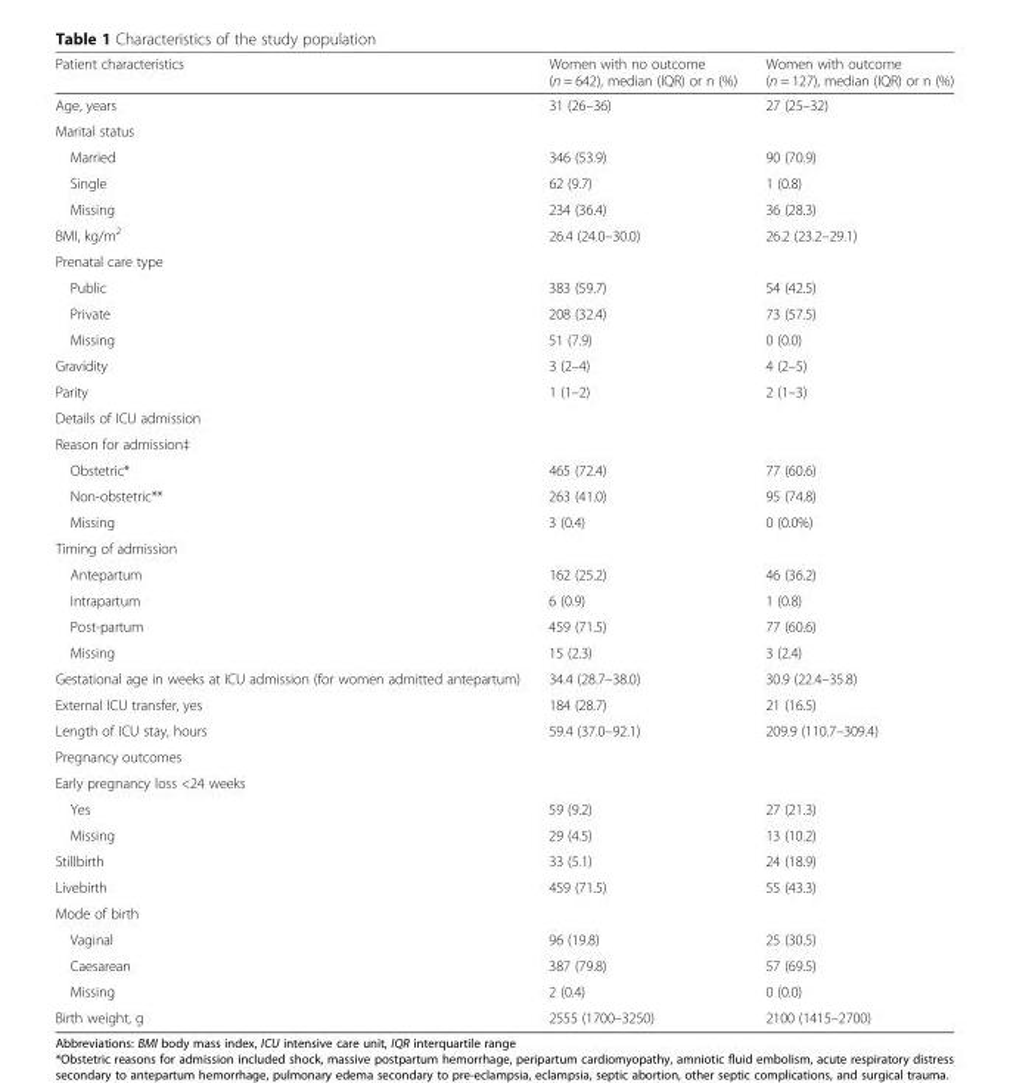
<table><thead><tr><td>Patient characteristics</td><td>Women with no outcome (n = 642), median (IQR) or n (%)</td><td>Women with outcome (n = 127), median (IQR) or n (%)</td></tr></thead><tbody><tr><td>Age, years</td><td>31 (26–36)</td><td>27 (25–32)</td></tr><tr><td colspan="3">Marital status</td></tr><tr><td>Married</td><td>346 (53.9)</td><td>90 (70.9)</td></tr><tr><td>Single</td><td>62 (9.7)</td><td>1 (0.8)</td></tr><tr><td>Missing</td><td>234 (36.4)</td><td>36 (28.3)</td></tr><tr><td>BMI, kg/m<sup>2</sup></td><td>26.4 (24.0–30.0)</td><td>26.2 (23.2–29.1)</td></tr><tr><td colspan="3">Prenatal care type</td></tr><tr><td>Public</td><td>383 (59.7)</td><td>54 (42.5)</td></tr><tr><td>Private</td><td>208 (32.4)</td><td>73 (57.5)</td></tr><tr><td>Missing</td><td>51 (7.9)</td><td>0 (0.0)</td></tr><tr><td>Gravidity</td><td>3 (2–4)</td><td>4 (2–5)</td></tr><tr><td>Parity</td><td>1 (1–2)</td><td>2 (1–3)</td></tr><tr><td colspan="3">Details of ICU admission</td></tr><tr><td colspan="3">Reason for admission‡</td></tr><tr><td>Obstetric*</td><td>465 (72.4)</td><td>77 (60.6)</td></tr><tr><td>Non-obstetric**</td><td>263 (41.0)</td><td>95 (74.8)</td></tr><tr><td>Missing</td><td>3 (0.4)</td><td>0 (0.0%)</td></tr><tr><td colspan="3">Timing of admission</td></tr><tr><td>Antepartum</td><td>162 (25.2)</td><td>46 (36.2)</td></tr><tr><td>Intrapartum</td><td>6 (0.9)</td><td>1 (0.8)</td></tr><tr><td>Post-partum</td><td>459 (71.5)</td><td>77 (60.6)</td></tr><tr><td>Missing</td><td>15 (2.3)</td><td>3 (2.4)</td></tr><tr><td>Gestational age in weeks at ICU admission (for women admitted antepartum)</td><td>34.4 (28.7–38.0)</td><td>30.9 (22.4–35.8)</td></tr><tr><td>External ICU transfer, yes</td><td>184 (28.7)</td><td>21 (16.5)</td></tr><tr><td>Length of ICU stay, hours</td><td>59.4 (37.0–92.1)</td><td>209.9 (110.7–309.4)</td></tr><tr><td colspan="3">Pregnancy outcomes</td></tr><tr><td colspan="3">Early pregnancy loss &lt;24 weeks</td></tr><tr><td>Yes</td><td>59 (9.2)</td><td>27 (21.3)</td></tr><tr><td>Missing</td><td>29 (4.5)</td><td>13 (10.2)</td></tr><tr><td>Stillbirth</td><td>33 (5.1)</td><td>24 (18.9)</td></tr><tr><td>Livebirth</td><td>459 (71.5)</td><td>55 (43.3)</td></tr><tr><td colspan="3">Mode of birth</td></tr><tr><td>Vaginal</td><td>96 (19.8)</td><td>25 (30.5)</td></tr><tr><td>Caesarean</td><td>387 (79.8)</td><td>57 (69.5)</td></tr><tr><td>Missing</td><td>2 (0.4)</td><td>0 (0.0)</td></tr><tr><td>Birth weight, g</td><td>2555 (1700–3250)</td><td>2100 (1415–2700)</td></tr></tbody></table>